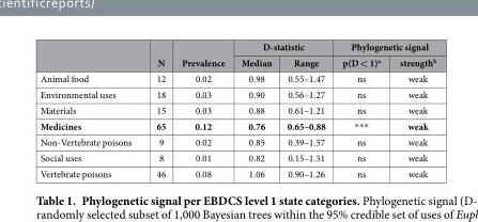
<table><thead><tr><td rowspan="2"></td><td rowspan="2">N</td><td rowspan="2">Prevalence</td><td colspan="2">D-statistic</td><td colspan="2">Phylogenetic signal</td></tr><tr><td>Median</td><td>Range</td><td>p(D &lt; 1)<sup>a</sup></td><td>strength<sup>b</sup></td></tr></thead><tbody><tr><td>Animal food</td><td>12</td><td>0.02</td><td>0.98</td><td>0.55–1.47</td><td>ns</td><td>weak</td></tr><tr><td>Environmental uses</td><td>18</td><td>0.03</td><td>0.90</td><td>0.56–1.27</td><td>ns</td><td>weak</td></tr><tr><td>Materials</td><td>15</td><td>0.03</td><td>0.88</td><td>0.61–1.21</td><td>ns</td><td>weak</td></tr><tr><td>Medicines</td><td>65</td><td>0.12</td><td>0.76</td><td>0.65–0.88</td><td>***</td><td>weak</td></tr><tr><td>Non-Vertebrate poisons</td><td>9</td><td>0.02</td><td>0.85</td><td>0.39–1.57</td><td>ns</td><td>weak</td></tr><tr><td>Social uses</td><td>8</td><td>0.01</td><td>0.82</td><td>0.15–1.51</td><td>ns</td><td>weak</td></tr><tr><td>Vertebrate poisons</td><td>46</td><td>0.08</td><td>1.06</td><td>0.90–1.26</td><td>ns</td><td>weak</td></tr></tbody></table>